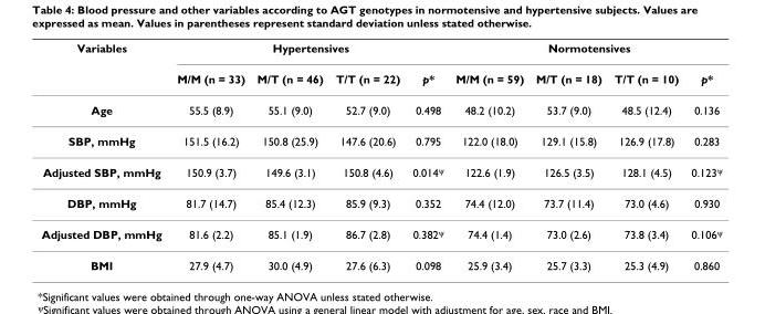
<table><thead><tr><td rowspan="2">Variables</td><td colspan="4">Hypertensives</td><td colspan="4">Normotensives</td></tr><tr><td>M/M (n = 33)</td><td>M/T (n = 46)</td><td>T/T (n = 22)</td><td>p*</td><td>M/M (n = 59)</td><td>M/T (n = 18)</td><td>T/T (n = 10)</td><td>p*</td></tr></thead><tbody><tr><td>Age</td><td>55.5 (8.9)</td><td>55.1 (9.0)</td><td>52.7 (9.0)</td><td>0.498</td><td>48.2 (10.2)</td><td>53.7 (9.0)</td><td>48.5 (12.4)</td><td>0.136</td></tr><tr><td>SBP, mmHg</td><td>151.5 (16.2)</td><td>150.8 (25.9)</td><td>147.6 (20.6)</td><td>0.795</td><td>122.0 (18.0)</td><td>129.1 (15.8)</td><td>126.9 (17.8)</td><td>0.283</td></tr><tr><td>Adjusted SBP, mmHg</td><td>150.9 (3.7)</td><td>149.6 (3.1)</td><td>150.8 (4.6)</td><td>0.014<sup>ψ</sup></td><td>122.6 (1.9)</td><td>126.5 (3.5)</td><td>128.1 (4.5)</td><td>0.123<sup>ψ</sup></td></tr><tr><td>DBP, mmHg</td><td>81.7 (14.7)</td><td>85.4 (12.3)</td><td>85.9 (9.3)</td><td>0.352</td><td>74.4 (12.0)</td><td>73.7 (11.4)</td><td>73.0 (4.6)</td><td>0.930</td></tr><tr><td>Adjusted DBP, mmHg</td><td>81.6 (2.2)</td><td>85.1 (1.9)</td><td>86.7 (2.8)</td><td>0.382<sup>ψ</sup></td><td>74.4 (1.4)</td><td>73.0 (2.6)</td><td>73.8 (3.4)</td><td>0.106<sup>ψ</sup></td></tr><tr><td>BMI</td><td>27.9 (4.7)</td><td>30.0 (4.9)</td><td>27.6 (6.3)</td><td>0.098</td><td>25.9 (3.4)</td><td>25.7 (3.3)</td><td>25.3 (4.9)</td><td>0.860</td></tr></tbody></table>